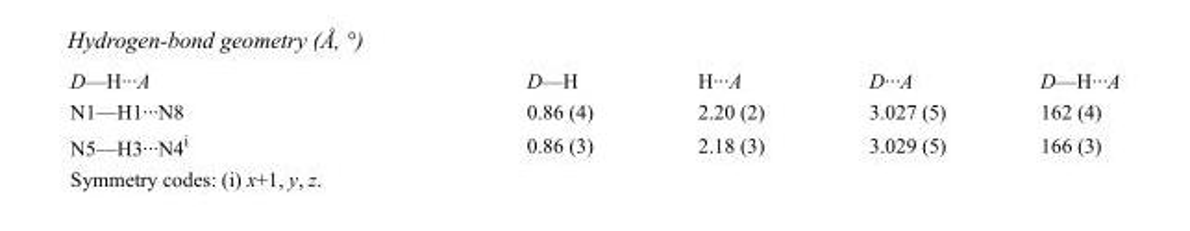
<table><tbody><tr><td>D—H···A</td><td>D—H</td><td>H···A</td><td>D···A</td><td>D—H···A</td></tr><tr><td>N1—H1···N8</td><td>0.86 (4)</td><td>2.20 (2)</td><td>3.027 (5)</td><td>162 (4)</td></tr><tr><td>N5—H3···N4<sup>i</sup></td><td>0.86 (3)</td><td>2.18 (3)</td><td>3.029 (5)</td><td>166 (3)</td></tr></tbody></table>